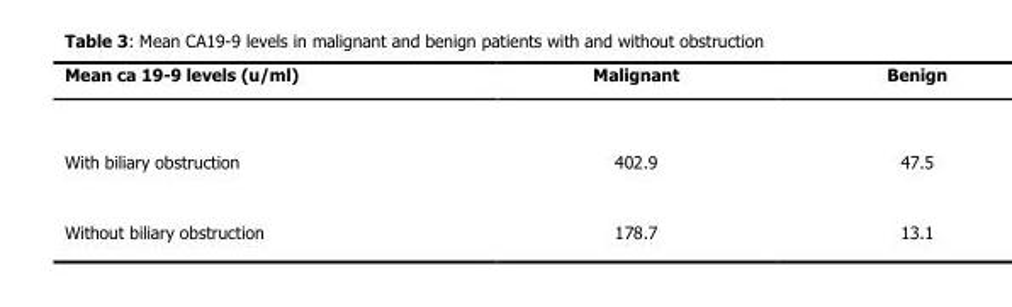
<table><thead><tr><td>Mean ca 19-9 levels (u/ml)</td><td>Malignant</td><td>Benign</td></tr></thead><tbody><tr><td>With biliary obstruction</td><td>402.9</td><td>47.5</td></tr><tr><td>Without biliary obstruction</td><td>178.7</td><td>13.1</td></tr></tbody></table>